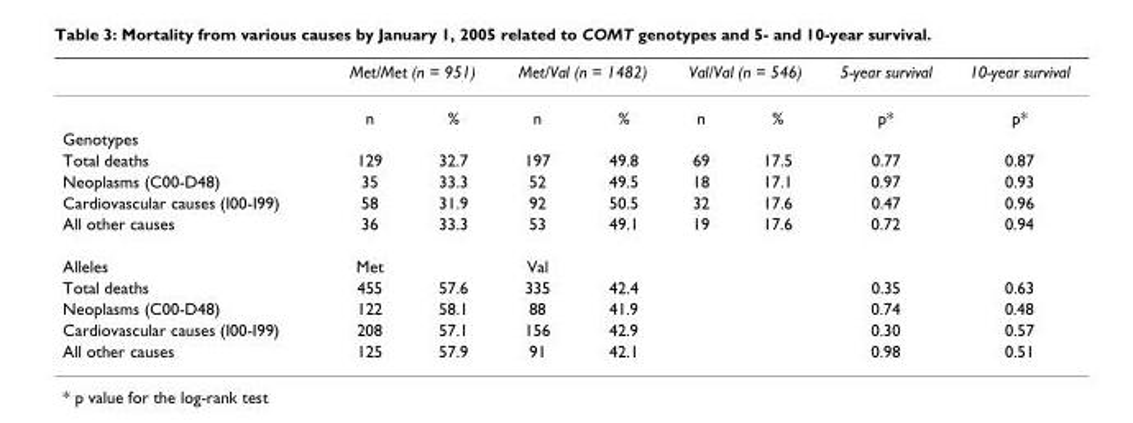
<table><thead><tr><td rowspan="2"></td><td colspan="2">Met/Met (n = 951)</td><td colspan="2">Met/Val (n = 1482)</td><td colspan="2">Val/Val (n = 546)</td><td rowspan="2">5-year survival p*</td><td rowspan="2">10-year survival p*</td></tr><tr><td>n</td><td>%</td><td>n</td><td>%</td><td>n</td><td>%</td></tr></thead><tbody><tr><td colspan="9">Genotypes</td></tr><tr><td>Total deaths</td><td>129</td><td>32.7</td><td>197</td><td>49.8</td><td>69</td><td>17.5</td><td>0.77</td><td>0.87</td></tr><tr><td>Neoplasms (C00-D48)</td><td>35</td><td>33.3</td><td>52</td><td>49.5</td><td>18</td><td>17.1</td><td>0.97</td><td>0.93</td></tr><tr><td>Cardiovascular causes (I00-I99)</td><td>58</td><td>31.9</td><td>92</td><td>50.5</td><td>32</td><td>17.6</td><td>0.47</td><td>0.96</td></tr><tr><td>All other causes</td><td>36</td><td>33.3</td><td>53</td><td>49.1</td><td>19</td><td>17.6</td><td>0.72</td><td>0.94</td></tr><tr><td>Alleles</td><td>Met</td><td></td><td>Val</td><td></td><td></td><td></td><td></td><td></td></tr><tr><td>Total deaths</td><td>455</td><td>57.6</td><td>335</td><td>42.4</td><td></td><td></td><td>0.35</td><td>0.63</td></tr><tr><td>Neoplasms (C00-D48)</td><td>122</td><td>58.1</td><td>88</td><td>41.9</td><td></td><td></td><td>0.74</td><td>0.48</td></tr><tr><td>Cardiovascular causes (I00-I99)</td><td>208</td><td>57.1</td><td>156</td><td>42.9</td><td></td><td></td><td>0.30</td><td>0.57</td></tr><tr><td>All other causes</td><td>125</td><td>57.9</td><td>91</td><td>42.1</td><td></td><td></td><td>0.98</td><td>0.51</td></tr></tbody></table>